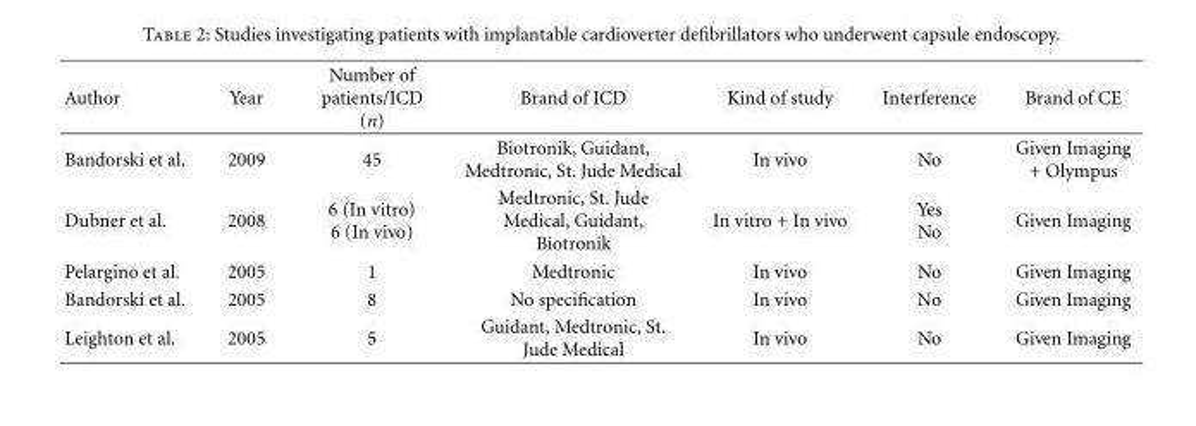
<table><thead><tr><td>Author</td><td>Year</td><td>Number of patients/ICD (n)</td><td>Brand of ICD</td><td>Kind of study</td><td>Interference</td><td>Brand of CE</td></tr></thead><tbody><tr><td>Bandorski et al.</td><td>2009</td><td>45</td><td>Biotronik, Guidant, Medtronic, St. Jude Medical</td><td>In vivo</td><td>No</td><td>Given Imaging + Olympus</td></tr><tr><td>Dubner et al.</td><td>2008</td><td>6 (In vitro) 6 (In vivo)</td><td>Medtronic, St. Jude Medical, Guidant, Biotronik</td><td>In vitro + In vivo</td><td>Yes No</td><td>Given Imaging</td></tr><tr><td>Pelargino et al.</td><td>2005</td><td>1</td><td>Medtronic</td><td>In vivo</td><td>No</td><td>Given Imaging</td></tr><tr><td>Bandorski et al.</td><td>2005</td><td>8</td><td>No specification</td><td>In vivo</td><td>No</td><td>Given Imaging</td></tr><tr><td>Leighton et al.</td><td>2005</td><td>5</td><td>Guidant, Medtronic, St. Jude Medical</td><td>In vivo</td><td>No</td><td>Given Imaging</td></tr></tbody></table>